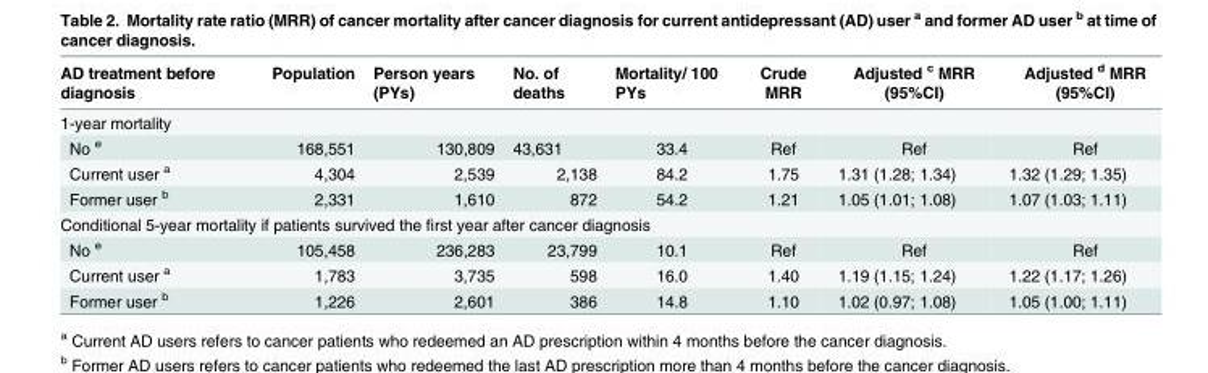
<table><thead><tr><td>AD treatment before diagnosis</td><td>Population</td><td>Person years (PYs)</td><td>No. of deaths</td><td>Mortality/ 100 PYs</td><td>Crude MRR</td><td>Adjusted <sup>c</sup> MRR (95%CI)</td><td>Adjusted <sup>d</sup> MRR (95%CI)</td></tr></thead><tbody><tr><td colspan="8">1-year mortality</td></tr><tr><td>No <sup>e</sup></td><td>168,551</td><td>130,809</td><td>43,631</td><td>33.4</td><td>Ref</td><td>Ref</td><td>Ref</td></tr><tr><td>Current user <sup>a</sup></td><td>4,304</td><td>2,539</td><td>2,138</td><td>84.2</td><td>1.75</td><td>1.31 (1.28; 1.34)</td><td>1.32 (1.29; 1.35)</td></tr><tr><td>Former user <sup>b</sup></td><td>2,331</td><td>1,610</td><td>872</td><td>54.2</td><td>1.21</td><td>1.05 (1.01; 1.08)</td><td>1.07 (1.03; 1.11)</td></tr><tr><td colspan="8">Conditional 5-year mortality if patients survived the first year after cancer diagnosis</td></tr><tr><td>No <sup>e</sup></td><td>105,458</td><td>236,283</td><td>23,799</td><td>10.1</td><td>Ref</td><td>Ref</td><td>Ref</td></tr><tr><td>Current user <sup>a</sup></td><td>1,783</td><td>3,735</td><td>598</td><td>16.0</td><td>1.40</td><td>1.19 (1.15; 1.24)</td><td>1.22 (1.17; 1.26)</td></tr><tr><td>Former user <sup>b</sup></td><td>1,226</td><td>2,601</td><td>386</td><td>14.8</td><td>1.10</td><td>1.02 (0.97; 1.08)</td><td>1.05 (1.00; 1.11)</td></tr></tbody></table>